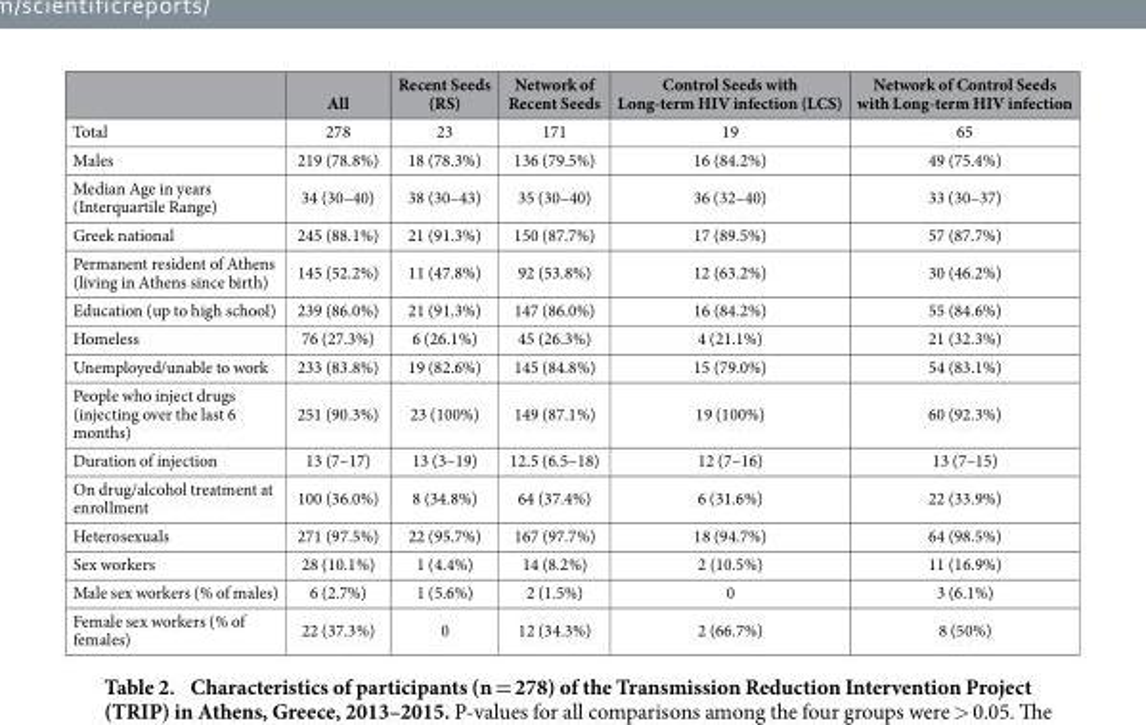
<table><thead><tr><td></td><td>All</td><td>Recent Seeds (RS)</td><td>Network of Recent Seeds</td><td>Control Seeds with Long-term HIV infection (LCS)</td><td>Network of Control Seeds with Long-term HIV infection</td></tr></thead><tbody><tr><td>Total</td><td>278</td><td>23</td><td>171</td><td>19</td><td>65</td></tr><tr><td>Males</td><td>219 (78.8%)</td><td>18 (78.3%)</td><td>136 (79.5%)</td><td>16 (84.2%)</td><td>49 (75.4%)</td></tr><tr><td>Median Age in years (Interquartile Range)</td><td>34 (30–40)</td><td>38 (30–43)</td><td>35 (30–40)</td><td>36 (32–40)</td><td>33 (30–37)</td></tr><tr><td>Greek national</td><td>245 (88.1%)</td><td>21 (91.3%)</td><td>150 (87.7%)</td><td>17 (89.5%)</td><td>57 (87.7%)</td></tr><tr><td>Permanent resident of Athens (living in Athens since birth)</td><td>145 (52.2%)</td><td>11 (47.8%)</td><td>92 (53.8%)</td><td>12 (63.2%)</td><td>30 (46.2%)</td></tr><tr><td>Education (up to high school)</td><td>239 (86.0%)</td><td>21 (91.3%)</td><td>147 (86.0%)</td><td>16 (84.2%)</td><td>55 (84.6%)</td></tr><tr><td>Homeless</td><td>76 (27.3%)</td><td>6 (26.1%)</td><td>45 (26.3%)</td><td>4 (21.1%)</td><td>21 (32.3%)</td></tr><tr><td>Unemployed/unable to work</td><td>233 (83.8%)</td><td>19 (82.6%)</td><td>145 (84.8%)</td><td>15 (79.0%)</td><td>54 (83.1%)</td></tr><tr><td>People who inject drugs (injecting over the last 6 months)</td><td>251 (90.3%)</td><td>23 (100%)</td><td>149 (87.1%)</td><td>19 (100%)</td><td>60 (92.3%)</td></tr><tr><td>Duration of injection</td><td>13 (7–17)</td><td>13 (3–19)</td><td>12.5 (6.5–18)</td><td>12 (7–16)</td><td>13 (7–15)</td></tr><tr><td>On drug/alcohol treatment at enrollment</td><td>100 (36.0%)</td><td>8 (34.8%)</td><td>64 (37.4%)</td><td>6 (31.6%)</td><td>22 (33.9%)</td></tr><tr><td>Heterosexuals</td><td>271 (97.5%)</td><td>22 (95.7%)</td><td>167 (97.7%)</td><td>18 (94.7%)</td><td>64 (98.5%)</td></tr><tr><td>Sex workers</td><td>28 (10.1%)</td><td>1 (4.4%)</td><td>14 (8.2%)</td><td>2 (10.5%)</td><td>11 (16.9%)</td></tr><tr><td>Male sex workers (% of males)</td><td>6 (2.7%)</td><td>1 (5.6%)</td><td>2 (1.5%)</td><td>0</td><td>3 (6.1%)</td></tr><tr><td>Female sex workers (% of females)</td><td>22 (37.3%)</td><td>0</td><td>12 (34.3%)</td><td>2 (66.7%)</td><td>8 (50%)</td></tr></tbody></table>